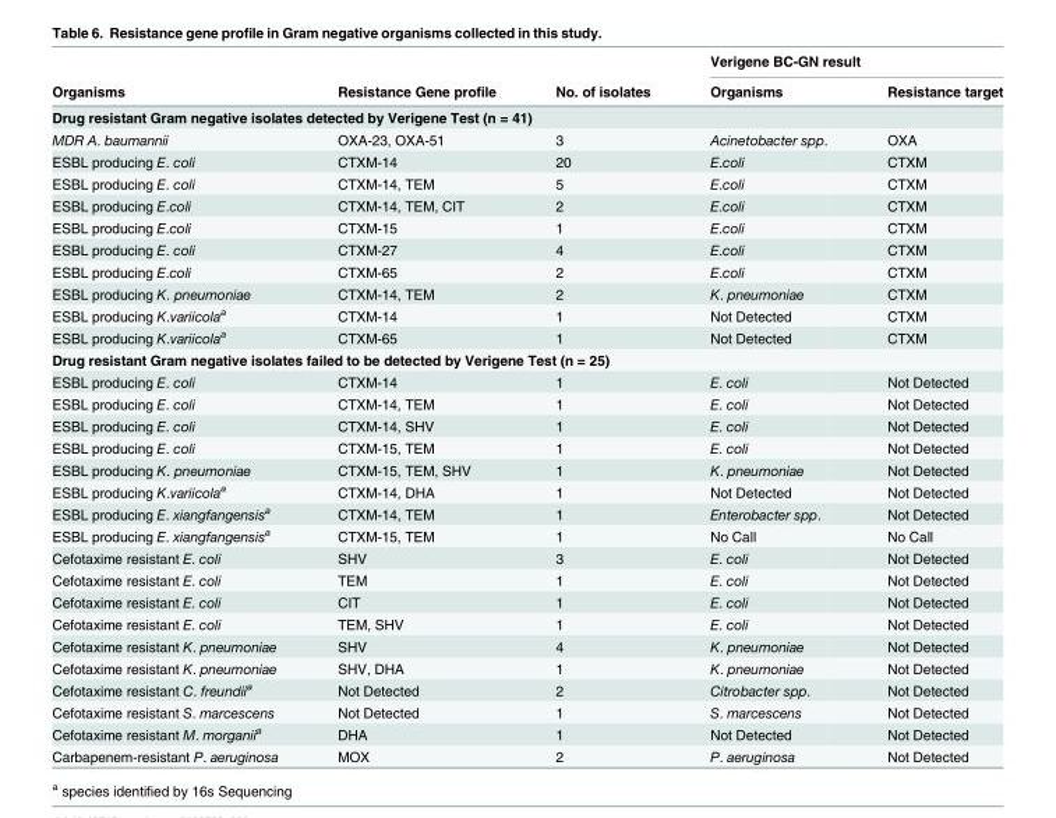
<table><thead><tr><td rowspan="2">Organisms</td><td rowspan="2">Resistance Gene profile</td><td rowspan="2">No. of isolates</td><td colspan="2">Verigene BC-GN result</td></tr><tr><td>Organisms</td><td>Resistance target</td></tr></thead><tbody><tr><td colspan="5">Drug resistant Gram negative isolates detected by Verigene Test (n = 41)</td></tr><tr><td>MDR A. baumannii</td><td>OXA-23, OXA-51</td><td>3</td><td>Acinetobacter spp.</td><td>OXA</td></tr><tr><td>ESBL producing E. coli</td><td>CTXM-14</td><td>20</td><td>E.coli</td><td>CTXM</td></tr><tr><td>ESBL producing E. coli</td><td>CTXM-14, TEM</td><td>5</td><td>E.coli</td><td>CTXM</td></tr><tr><td>ESBL producing E.coli</td><td>CTXM-14, TEM, CIT</td><td>2</td><td>E.coli</td><td>CTXM</td></tr><tr><td>ESBL producing E.coli</td><td>CTXM-15</td><td>1</td><td>E.coli</td><td>CTXM</td></tr><tr><td>ESBL producing E. coli</td><td>CTXM-27</td><td>4</td><td>E.coli</td><td>CTXM</td></tr><tr><td>ESBL producing E.coli</td><td>CTXM-65</td><td>2</td><td>E.coli</td><td>CTXM</td></tr><tr><td>ESBL producing K. pneumoniae</td><td>CTXM-14, TEM</td><td>2</td><td>K. pneumoniae</td><td>CTXM</td></tr><tr><td>ESBL producing K.variicola<sup>a</sup></td><td>CTXM-14</td><td>1</td><td>Not Detected</td><td>CTXM</td></tr><tr><td>ESBL producing K.variicola<sup>a</sup></td><td>CTXM-65</td><td>1</td><td>Not Detected</td><td>CTXM</td></tr><tr><td colspan="5">Drug resistant Gram negative isolates failed to be detected by Verigene Test (n = 25)</td></tr><tr><td>ESBL producing E. coli</td><td>CTXM-14</td><td>1</td><td>E. coli</td><td>Not Detected</td></tr><tr><td>ESBL producing E. coli</td><td>CTXM-14, TEM</td><td>1</td><td>E. coli</td><td>Not Detected</td></tr><tr><td>ESBL producing E. coli</td><td>CTXM-14, SHV</td><td>1</td><td>E. coli</td><td>Not Detected</td></tr><tr><td>ESBL producing E. coli</td><td>CTXM-15, TEM</td><td>1</td><td>E. coli</td><td>Not Detected</td></tr><tr><td>ESBL producing K. pneumoniae</td><td>CTXM-15, TEM, SHV</td><td>1</td><td>K. pneumoniae</td><td>Not Detected</td></tr><tr><td>ESBL producing K.variicola<sup>a</sup></td><td>CTXM-14, DHA</td><td>1</td><td>Not Detected</td><td>Not Detected</td></tr><tr><td>ESBL producing E. xiangfangensis<sup>a</sup></td><td>CTXM-14, TEM</td><td>1</td><td>Enterobacter spp.</td><td>Not Detected</td></tr><tr><td>ESBL producing E. xiangfangensis<sup>a</sup></td><td>CTXM-15, TEM</td><td>1</td><td>No Call</td><td>No Call</td></tr><tr><td>Cefotaxime resistant E. coli</td><td>SHV</td><td>3</td><td>E. coli</td><td>Not Detected</td></tr><tr><td>Cefotaxime resistant E. coli</td><td>TEM</td><td>1</td><td>E. coli</td><td>Not Detected</td></tr><tr><td>Cefotaxime resistant E. coli</td><td>CIT</td><td>1</td><td>E. coli</td><td>Not Detected</td></tr><tr><td>Cefotaxime resistant E. coli</td><td>TEM, SHV</td><td>1</td><td>E. coli</td><td>Not Detected</td></tr><tr><td>Cefotaxime resistant K. pneumoniae</td><td>SHV</td><td>4</td><td>K. pneumoniae</td><td>Not Detected</td></tr><tr><td>Cefotaxime resistant K. pneumoniae</td><td>SHV, DHA</td><td>1</td><td>K. pneumoniae</td><td>Not Detected</td></tr><tr><td>Cefotaxime resistant C. freundii<sup>a</sup></td><td>Not Detected</td><td>2</td><td>Citrobacter spp.</td><td>Not Detected</td></tr><tr><td>Cefotaxime resistant S. marcescens</td><td>Not Detected</td><td>1</td><td>S. marcescens</td><td>Not Detected</td></tr><tr><td>Cefotaxime resistant M. morganii<sup>a</sup></td><td>DHA</td><td>1</td><td>Not Detected</td><td>Not Detected</td></tr><tr><td>Carbapenem-resistant P. aeruginosa</td><td>MOX</td><td>2</td><td>P. aeruginosa</td><td>Not Detected</td></tr></tbody></table>